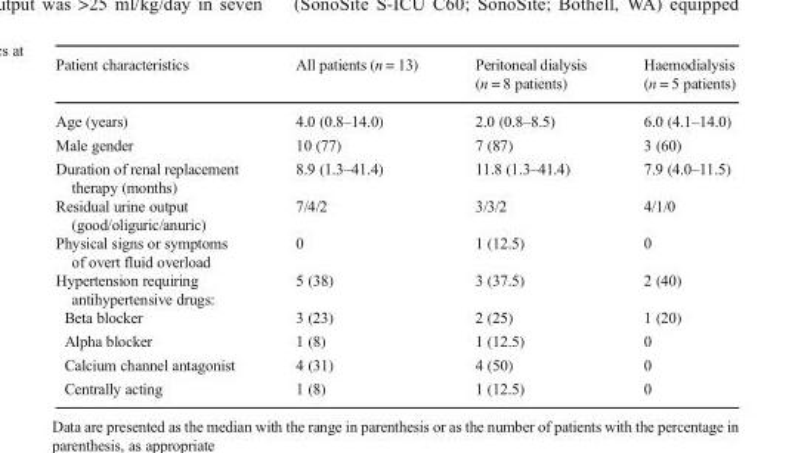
<table><thead><tr><td>Patient characteristics</td><td>All patients (n = 13)</td><td>Peritoneal dialysis (n = 8 patients)</td><td>Haemodialysis (n = 5 patients)</td></tr></thead><tbody><tr><td>Age (years)</td><td>4.0 (0.8–14.0)</td><td>2.0 (0.8–8.5)</td><td>6.0 (4.1–14.0)</td></tr><tr><td>Male gender</td><td>10 (77)</td><td>7 (87)</td><td>3 (60)</td></tr><tr><td>Duration of renal replacement therapy (months)</td><td>8.9 (1.3–41.4)</td><td>11.8 (1.3–41.4)</td><td>7.9 (4.0–11.5)</td></tr><tr><td>Residual urine output (good/oliguric/anuric)</td><td>7/4/2</td><td>3/3/2</td><td>4/1/0</td></tr><tr><td>Physical signs or symptoms of overt fluid overload</td><td>0</td><td>1 (12.5)</td><td>0</td></tr><tr><td>Hypertension requiring antihypertensive drugs:</td><td>5 (38)</td><td>3 (37.5)</td><td>2 (40)</td></tr><tr><td>Beta blocker</td><td>3 (23)</td><td>2 (25)</td><td>1 (20)</td></tr><tr><td>Alpha blocker</td><td>1 (8)</td><td>1 (12.5)</td><td>0</td></tr><tr><td>Calcium channel antagonist</td><td>4 (31)</td><td>4 (50)</td><td>0</td></tr><tr><td>Centrally acting</td><td>1 (8)</td><td>1 (12.5)</td><td>0</td></tr></tbody></table>